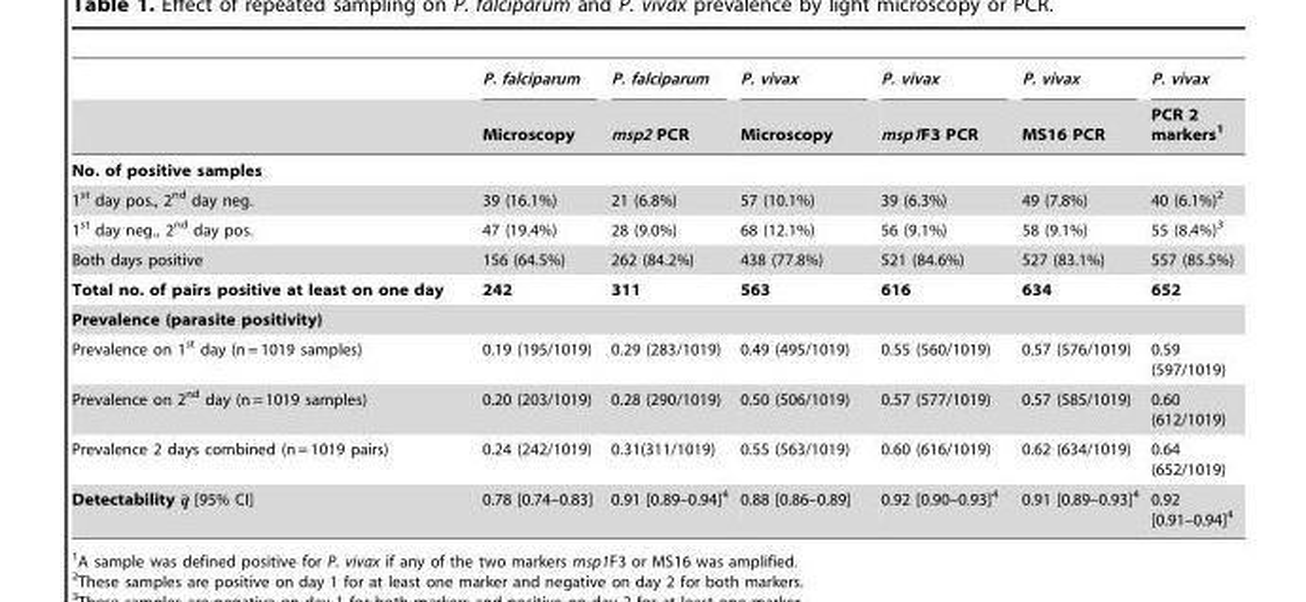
<table><thead><tr><td rowspan="2"></td><td rowspan="2">P. falciparum Microscopy</td><td rowspan="2">P. falciparum msp2 PCR</td><td rowspan="2">P. vivax Microscopy</td><td rowspan="2">P. vivax msp1F3 PCR</td><td rowspan="2">P. vivax MS16 PCR</td><td rowspan="2">P. vivax PCR 2 markers<sup>1</sup></td></tr><tr></tr></thead><tbody><tr><td colspan="7">No. of positive samples</td></tr><tr><td>1<sup>st</sup> day pos., 2<sup>nd</sup> day neg.</td><td>39 (16.1%)</td><td>21 (6.8%)</td><td>57 (10.1%)</td><td>39 (6.3%)</td><td>49 (7.8%)</td><td>40 (6.1%)<sup>2</sup></td></tr><tr><td>1<sup>st</sup> day neg., 2<sup>nd</sup> day pos.</td><td>47 (19.4%)</td><td>28 (9.0%)</td><td>68 (12.1%)</td><td>56 (9.1%)</td><td>58 (9.1%)</td><td>55 (8.4%)<sup>3</sup></td></tr><tr><td>Both days positive</td><td>156 (64.5%)</td><td>262 (84.2%)</td><td>438 (77.8%)</td><td>521 (84.6%)</td><td>527 (83.1%)</td><td>557 (85.5%)</td></tr><tr><td>Total no. of pairs positive at least on one day</td><td>242</td><td>311</td><td>563</td><td>616</td><td>634</td><td>652</td></tr><tr><td colspan="7">Prevalence (parasite positivity)</td></tr><tr><td>Prevalence on 1<sup>st</sup> day (n = 1019 samples)</td><td>0.19 (195/1019)</td><td>0.29 (283/1019)</td><td>0.49 (495/1019)</td><td>0.55 (560/1019)</td><td>0.57 (576/1019)</td><td>0.59 (597/1019)</td></tr><tr><td>Prevalence on 2<sup>nd</sup> day (n = 1019 samples)</td><td>0.20 (203/1019)</td><td>0.28 (290/1019)</td><td>0.50 (506/1019)</td><td>0.57 (577/1019)</td><td>0.57 (585/1019)</td><td>0.60 (612/1019)</td></tr><tr><td>Prevalence 2 days combined (n = 1019 pairs)</td><td>0.24 (242/1019)</td><td>0.31(311/1019)</td><td>0.55 (563/1019)</td><td>0.60 (616/1019)</td><td>0.62 (634/1019)</td><td>0.64 (652/1019)</td></tr><tr><td>Detectability ~q [95% CI]</td><td>0.78 [0.74–0.83]</td><td>0.91 [0.89–0.94]<sup>4</sup></td><td>0.88 [0.86–0.89]</td><td>0.92 [0.90–0.93]<sup>4</sup></td><td>0.91 [0.89–0.93]<sup>4</sup></td><td>0.92 [0.91–0.94]<sup>4</sup></td></tr></tbody></table>